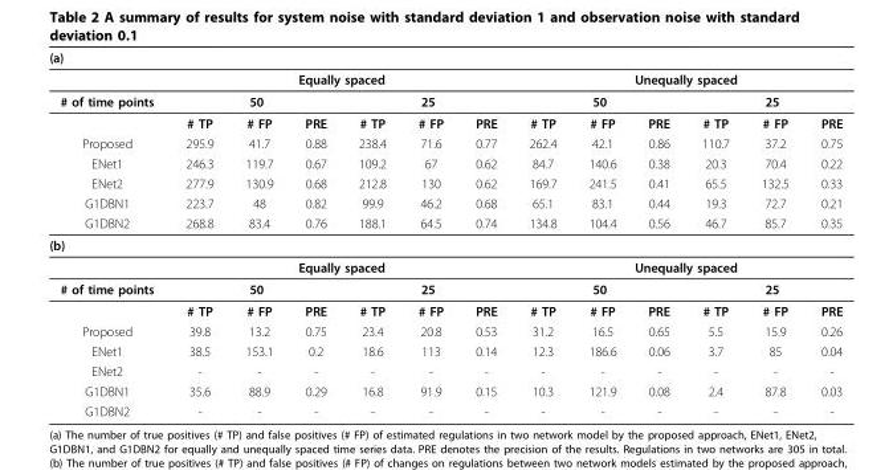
<table><thead><tr><td>(a)</td><td></td><td></td><td></td><td></td><td></td><td></td><td></td><td></td><td></td><td></td><td></td><td></td></tr></thead><tbody><tr><td></td><td colspan="6">Equally spaced</td><td colspan="6">Unequally spaced</td></tr><tr><td rowspan="2"># of time points</td><td colspan="3">50</td><td colspan="3">25</td><td colspan="3">50</td><td colspan="3">25</td></tr><tr><td># TP</td><td># FP</td><td>PRE</td><td># TP</td><td># FP</td><td>PRE</td><td># TP</td><td># FP</td><td>PRE</td><td># TP</td><td># FP</td><td>PRE</td></tr><tr><td>Proposed</td><td>295.9</td><td>41.7</td><td>0.88</td><td>238.4</td><td>71.6</td><td>0.77</td><td>262.4</td><td>42.1</td><td>0.86</td><td>110.7</td><td>37.2</td><td>0.75</td></tr><tr><td>ENet1</td><td>246.3</td><td>119.7</td><td>0.67</td><td>109.2</td><td>67</td><td>0.62</td><td>84.7</td><td>140.6</td><td>0.38</td><td>20.3</td><td>70.4</td><td>0.22</td></tr><tr><td>ENet2</td><td>277.9</td><td>130.9</td><td>0.68</td><td>212.8</td><td>130</td><td>0.62</td><td>169.7</td><td>241.5</td><td>0.41</td><td>65.5</td><td>132.5</td><td>0.33</td></tr><tr><td>G1DBN1</td><td>223.7</td><td>48</td><td>0.82</td><td>99.9</td><td>46.2</td><td>0.68</td><td>65.1</td><td>83.1</td><td>0.44</td><td>19.3</td><td>72.7</td><td>0.21</td></tr><tr><td>G1DBN2</td><td>268.8</td><td>83.4</td><td>0.76</td><td>188.1</td><td>64.5</td><td>0.74</td><td>134.8</td><td>104.4</td><td>0.56</td><td>46.7</td><td>85.7</td><td>0.35</td></tr><tr><td colspan="13">(b)</td></tr><tr><td></td><td colspan="6">Equally spaced</td><td colspan="6">Unequally spaced</td></tr><tr><td rowspan="2"># of time points</td><td colspan="3">50</td><td colspan="3">25</td><td colspan="3">50</td><td colspan="3">25</td></tr><tr><td># TP</td><td># FP</td><td>PRE</td><td># TP</td><td># FP</td><td>PRE</td><td># TP</td><td># FP</td><td>PRE</td><td># TP</td><td># FP</td><td>PRE</td></tr><tr><td>Proposed</td><td>39.8</td><td>13.2</td><td>0.75</td><td>23.4</td><td>20.8</td><td>0.53</td><td>31.2</td><td>16.5</td><td>0.65</td><td>5.5</td><td>15.9</td><td>0.26</td></tr><tr><td>ENet1</td><td>38.5</td><td>153.1</td><td>0.2</td><td>18.6</td><td>113</td><td>0.14</td><td>12.3</td><td>186.6</td><td>0.06</td><td>3.7</td><td>85</td><td>0.04</td></tr><tr><td>ENet2</td><td>-</td><td>-</td><td>-</td><td>-</td><td>-</td><td>-</td><td>-</td><td>-</td><td>-</td><td>-</td><td>-</td><td>-</td></tr><tr><td>G1DBN1</td><td>35.6</td><td>88.9</td><td>0.29</td><td>16.8</td><td>91.9</td><td>0.15</td><td>10.3</td><td>121.9</td><td>0.08</td><td>2.4</td><td>87.8</td><td>0.03</td></tr><tr><td>G1DBN2</td><td>-</td><td>-</td><td>-</td><td>-</td><td>-</td><td>-</td><td>-</td><td>-</td><td>-</td><td>-</td><td>-</td><td>-</td></tr></tbody></table>